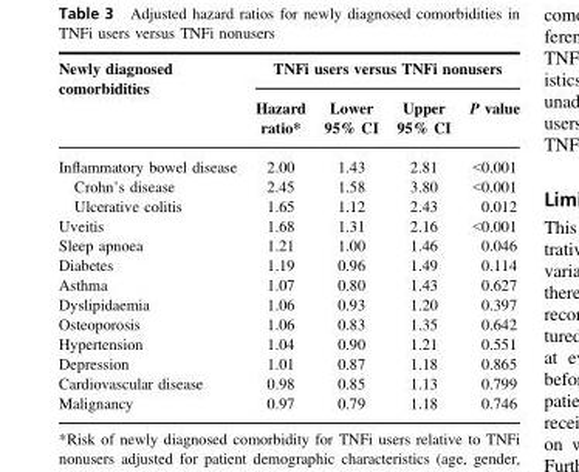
<table><thead><tr><td rowspan="2">Newly diagnosed comorbidities</td><td colspan="4">TNFi users versus TNFi nonusers</td></tr><tr><td>Hazard ratio*</td><td>Lower 95% CI</td><td>Upper 95% CI</td><td>P value</td></tr></thead><tbody><tr><td>Inflammatory bowel disease</td><td>2.00</td><td>1.43</td><td>2.81</td><td>&lt;0.001</td></tr><tr><td>Crohn’s disease</td><td>2.45</td><td>1.58</td><td>3.80</td><td>&lt;0.001</td></tr><tr><td>Ulcerative colitis</td><td>1.65</td><td>1.12</td><td>2.43</td><td>0.012</td></tr><tr><td>Uveitis</td><td>1.68</td><td>1.31</td><td>2.16</td><td>&lt;0.001</td></tr><tr><td>Sleep apnoea</td><td>1.21</td><td>1.00</td><td>1.46</td><td>0.046</td></tr><tr><td>Diabetes</td><td>1.19</td><td>0.96</td><td>1.49</td><td>0.114</td></tr><tr><td>Asthma</td><td>1.07</td><td>0.80</td><td>1.43</td><td>0.627</td></tr><tr><td>Dyslipidaemia</td><td>1.06</td><td>0.93</td><td>1.20</td><td>0.397</td></tr><tr><td>Osteoporosis</td><td>1.06</td><td>0.83</td><td>1.35</td><td>0.642</td></tr><tr><td>Hypertension</td><td>1.04</td><td>0.90</td><td>1.21</td><td>0.551</td></tr><tr><td>Depression</td><td>1.01</td><td>0.87</td><td>1.18</td><td>0.865</td></tr><tr><td>Cardiovascular disease</td><td>0.98</td><td>0.85</td><td>1.13</td><td>0.799</td></tr><tr><td>Malignancy</td><td>0.97</td><td>0.79</td><td>1.18</td><td>0.746</td></tr></tbody></table>